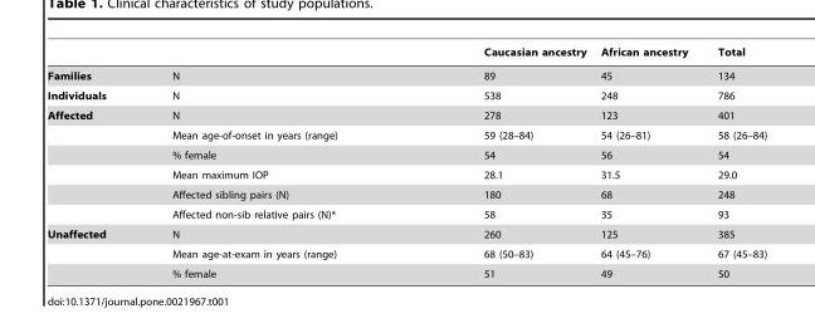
<table><thead><tr><td></td><td></td><td>Caucasian ancestry</td><td>African ancestry</td><td>Total</td></tr></thead><tbody><tr><td>Families</td><td>N</td><td>89</td><td>45</td><td>134</td></tr><tr><td>Individuals</td><td>N</td><td>538</td><td>248</td><td>786</td></tr><tr><td rowspan="6">Affected</td><td>N</td><td>278</td><td>123</td><td>401</td></tr><tr><td>Mean age-of-onset in years (range)</td><td>59 (28–84)</td><td>54 (26–81)</td><td>58 (26–84)</td></tr><tr><td>% female</td><td>54</td><td>56</td><td>54</td></tr><tr><td>Mean maximum IOP</td><td>28.1</td><td>31.5</td><td>29.0</td></tr><tr><td>Affected sibling pairs (N)</td><td>180</td><td>68</td><td>248</td></tr><tr><td>Affected non-sib relative pairs (N)*</td><td>58</td><td>35</td><td>93</td></tr><tr><td rowspan="3">Unaffected</td><td>N</td><td>260</td><td>125</td><td>385</td></tr><tr><td>Mean age-at-exam in years (range)</td><td>68 (50–83)</td><td>64 (45–76)</td><td>67 (45–83)</td></tr><tr><td>% female</td><td>51</td><td>49</td><td>50</td></tr></tbody></table>